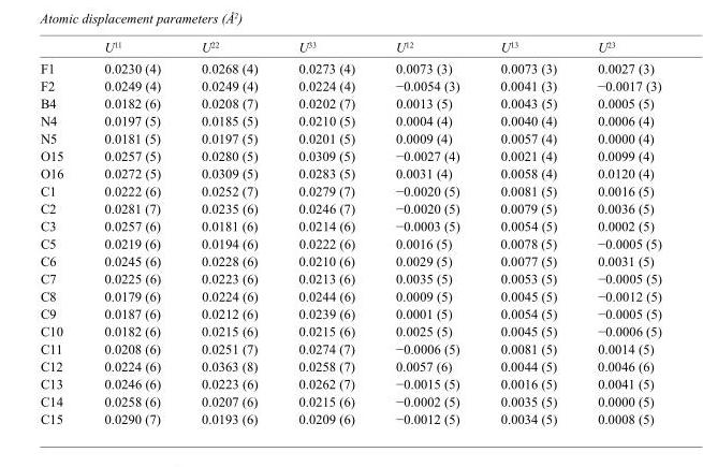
<table><thead><tr><td></td><td>U<sup>11</sup></td><td>U<sup>22</sup></td><td>U<sup>33</sup></td><td>U<sup>12</sup></td><td>U<sup>13</sup></td><td>U<sup>23</sup></td></tr></thead><tbody><tr><td>F1</td><td>0.0230 (4)</td><td>0.0268 (4)</td><td>0.0273 (4)</td><td>0.0073 (3)</td><td>0.0073 (3)</td><td>0.0027 (3)</td></tr><tr><td>F2</td><td>0.0249 (4)</td><td>0.0249 (4)</td><td>0.0224 (4)</td><td>−0.0054 (3)</td><td>0.0041 (3)</td><td>−0.0017 (3)</td></tr><tr><td>B4</td><td>0.0182 (6)</td><td>0.0208 (7)</td><td>0.0202 (7)</td><td>0.0013 (5)</td><td>0.0043 (5)</td><td>0.0005 (5)</td></tr><tr><td>N4</td><td>0.0197 (5)</td><td>0.0185 (5)</td><td>0.0210 (5)</td><td>0.0004 (4)</td><td>0.0040 (4)</td><td>0.0006 (4)</td></tr><tr><td>N5</td><td>0.0181 (5)</td><td>0.0197 (5)</td><td>0.0201 (5)</td><td>0.0009 (4)</td><td>0.0057 (4)</td><td>0.0000 (4)</td></tr><tr><td>O15</td><td>0.0257 (5)</td><td>0.0280 (5)</td><td>0.0309 (5)</td><td>−0.0027 (4)</td><td>0.0021 (4)</td><td>0.0099 (4)</td></tr><tr><td>O16</td><td>0.0272 (5)</td><td>0.0309 (5)</td><td>0.0283 (5)</td><td>0.0031 (4)</td><td>0.0058 (4)</td><td>0.0120 (4)</td></tr><tr><td>C1</td><td>0.0222 (6)</td><td>0.0252 (7)</td><td>0.0279 (7)</td><td>−0.0020 (5)</td><td>0.0081 (5)</td><td>0.0016 (5)</td></tr><tr><td>C2</td><td>0.0281 (7)</td><td>0.0235 (6)</td><td>0.0246 (7)</td><td>−0.0020 (5)</td><td>0.0079 (5)</td><td>0.0036 (5)</td></tr><tr><td>C3</td><td>0.0257 (6)</td><td>0.0181 (6)</td><td>0.0214 (6)</td><td>−0.0003 (5)</td><td>0.0054 (5)</td><td>0.0002 (5)</td></tr><tr><td>C5</td><td>0.0219 (6)</td><td>0.0194 (6)</td><td>0.0222 (6)</td><td>0.0016 (5)</td><td>0.0078 (5)</td><td>−0.0005 (5)</td></tr><tr><td>C6</td><td>0.0245 (6)</td><td>0.0228 (6)</td><td>0.0210 (6)</td><td>0.0029 (5)</td><td>0.0077 (5)</td><td>0.0031 (5)</td></tr><tr><td>C7</td><td>0.0225 (6)</td><td>0.0223 (6)</td><td>0.0213 (6)</td><td>0.0035 (5)</td><td>0.0053 (5)</td><td>−0.0005 (5)</td></tr><tr><td>C8</td><td>0.0179 (6)</td><td>0.0224 (6)</td><td>0.0244 (6)</td><td>0.0009 (5)</td><td>0.0045 (5)</td><td>−0.0012 (5)</td></tr><tr><td>C9</td><td>0.0187 (6)</td><td>0.0212 (6)</td><td>0.0239 (6)</td><td>0.0001 (5)</td><td>0.0054 (5)</td><td>−0.0005 (5)</td></tr><tr><td>C10</td><td>0.0182 (6)</td><td>0.0215 (6)</td><td>0.0215 (6)</td><td>0.0025 (5)</td><td>0.0045 (5)</td><td>−0.0006 (5)</td></tr><tr><td>C11</td><td>0.0208 (6)</td><td>0.0251 (7)</td><td>0.0274 (7)</td><td>−0.0006 (5)</td><td>0.0081 (5)</td><td>0.0014 (5)</td></tr><tr><td>C12</td><td>0.0224 (6)</td><td>0.0363 (8)</td><td>0.0258 (7)</td><td>0.0057 (6)</td><td>0.0044 (5)</td><td>0.0046 (6)</td></tr><tr><td>C13</td><td>0.0246 (6)</td><td>0.0223 (6)</td><td>0.0262 (7)</td><td>−0.0015 (5)</td><td>0.0016 (5)</td><td>0.0041 (5)</td></tr><tr><td>C14</td><td>0.0258 (6)</td><td>0.0207 (6)</td><td>0.0215 (6)</td><td>−0.0002 (5)</td><td>0.0035 (5)</td><td>0.0000 (5)</td></tr><tr><td>C15</td><td>0.0290 (7)</td><td>0.0193 (6)</td><td>0.0209 (6)</td><td>−0.0012 (5)</td><td>0.0034 (5)</td><td>0.0008 (5)</td></tr></tbody></table>